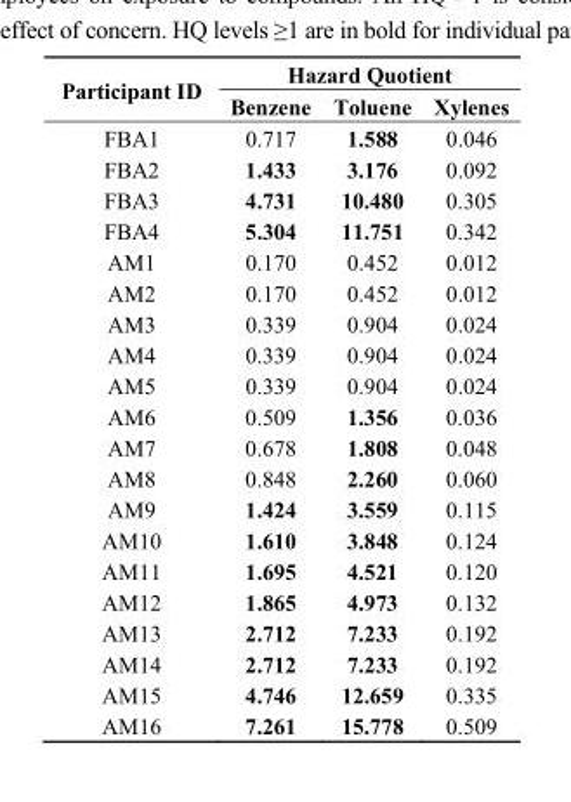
<table><thead><tr><td rowspan="2">Participant ID</td><td colspan="3">Hazard Quotient</td></tr><tr><td>Benzene</td><td>Toluene</td><td>Xylenes</td></tr></thead><tbody><tr><td>FBA1</td><td>0.717</td><td>1.588</td><td>0.046</td></tr><tr><td>FBA2</td><td>1.433</td><td>3.176</td><td>0.092</td></tr><tr><td>FBA3</td><td>4.731</td><td>10.480</td><td>0.305</td></tr><tr><td>FBA4</td><td>5.304</td><td>11.751</td><td>0.342</td></tr><tr><td>AM1</td><td>0.170</td><td>0.452</td><td>0.012</td></tr><tr><td>AM2</td><td>0.170</td><td>0.452</td><td>0.012</td></tr><tr><td>AM3</td><td>0.339</td><td>0.904</td><td>0.024</td></tr><tr><td>AM4</td><td>0.339</td><td>0.904</td><td>0.024</td></tr><tr><td>AM5</td><td>0.339</td><td>0.904</td><td>0.024</td></tr><tr><td>AM6</td><td>0.509</td><td>1.356</td><td>0.036</td></tr><tr><td>AM7</td><td>0.678</td><td>1.808</td><td>0.048</td></tr><tr><td>AM8</td><td>0.848</td><td>2.260</td><td>0.060</td></tr><tr><td>AM9</td><td>1.424</td><td>3.559</td><td>0.115</td></tr><tr><td>AM10</td><td>1.610</td><td>3.848</td><td>0.124</td></tr><tr><td>AM11</td><td>1.695</td><td>4.521</td><td>0.120</td></tr><tr><td>AM12</td><td>1.865</td><td>4.973</td><td>0.132</td></tr><tr><td>AM13</td><td>2.712</td><td>7.233</td><td>0.192</td></tr><tr><td>AM14</td><td>2.712</td><td>7.233</td><td>0.192</td></tr><tr><td>AM15</td><td>4.746</td><td>12.659</td><td>0.335</td></tr><tr><td>AM16</td><td>7.261</td><td>15.778</td><td>0.509</td></tr></tbody></table>